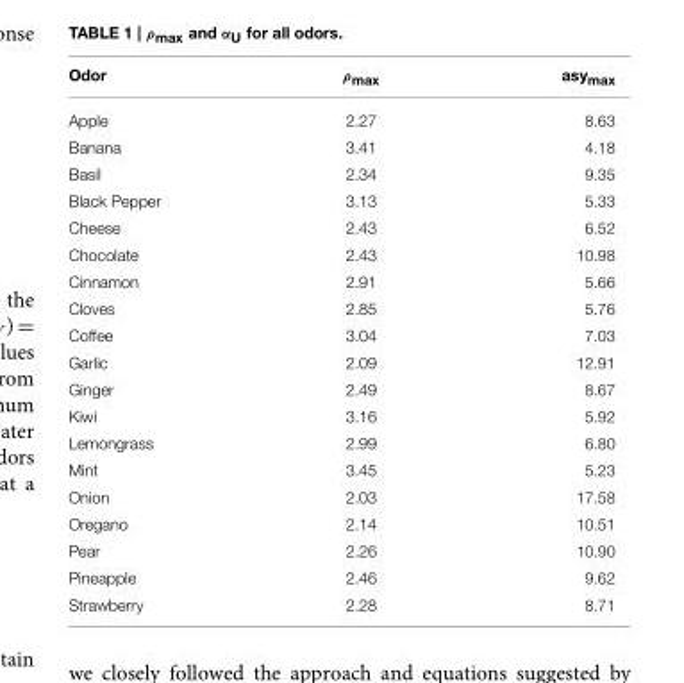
<table><thead><tr><td>Odor</td><td>ρmax</td><td>asymax</td></tr></thead><tbody><tr><td>Apple</td><td>2.27</td><td>8.63</td></tr><tr><td>Banana</td><td>3.41</td><td>4.18</td></tr><tr><td>Basil</td><td>2.34</td><td>9.35</td></tr><tr><td>Black Pepper</td><td>3.13</td><td>5.33</td></tr><tr><td>Cheese</td><td>2.43</td><td>6.52</td></tr><tr><td>Chocolate</td><td>2.43</td><td>10.98</td></tr><tr><td>Cinnamon</td><td>2.91</td><td>5.66</td></tr><tr><td>Cloves</td><td>2.85</td><td>5.76</td></tr><tr><td>Coffee</td><td>3.04</td><td>7.03</td></tr><tr><td>Garlic</td><td>2.09</td><td>12.91</td></tr><tr><td>Ginger</td><td>2.49</td><td>8.67</td></tr><tr><td>Kiwi</td><td>3.16</td><td>5.92</td></tr><tr><td>Lemongrass</td><td>2.99</td><td>6.80</td></tr><tr><td>Mint</td><td>3.45</td><td>5.23</td></tr><tr><td>Onion</td><td>2.03</td><td>17.58</td></tr><tr><td>Oregano</td><td>2.14</td><td>10.51</td></tr><tr><td>Pear</td><td>2.26</td><td>10.90</td></tr><tr><td>Pineapple</td><td>2.46</td><td>9.62</td></tr><tr><td>Strawberry</td><td>2.28</td><td>8.71</td></tr></tbody></table>